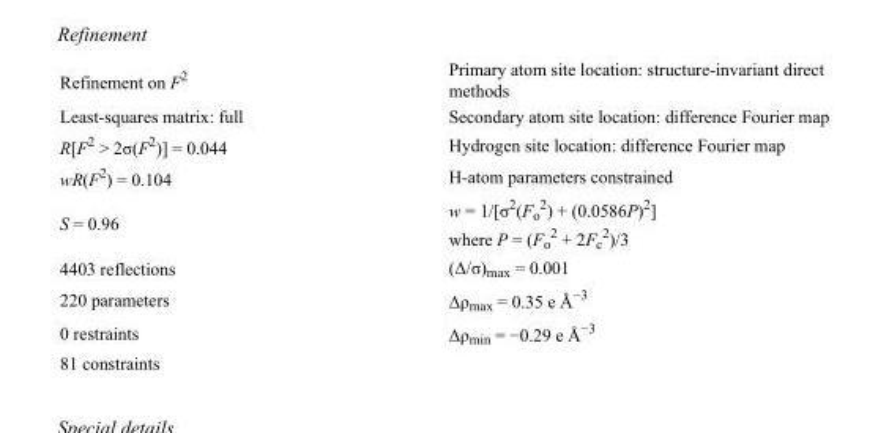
<table><tbody><tr><td>Refinement on F<sup>2</sup></td><td>Primary atom site location: structure-invariant direct methods</td></tr><tr><td>Least-squares matrix: full</td><td>Secondary atom site location: difference Fourier map</td></tr><tr><td>R[F<sup>2</sup> &gt; 2σ(F<sup>2</sup>)] = 0.044</td><td>Hydrogen site location: difference Fourier map</td></tr><tr><td>wR(F<sup>2</sup>) = 0.104</td><td>H-atom parameters constrained</td></tr><tr><td>S = 0.96</td><td>w = 1/[σ<sup>2</sup>(F<sub>o</sub> <sup>2</sup>) + (0.0586P)<sup>2</sup>] where P = (F<sub>o</sub> <sup>2</sup> + 2F<sub>c</sub> <sup>2</sup>)/3</td></tr><tr><td>4403 reflections</td><td>(Δ/σ)<sub>max</sub> = 0.001</td></tr><tr><td>220 parameters</td><td>Δρ<sub>max</sub> = 0.35 e Å<sup>−3</sup></td></tr><tr><td>0 restraints</td><td>Δρ<sub>min</sub> = −0.29 e Å<sup>−3</sup></td></tr><tr><td>81 constraints</td><td></td></tr></tbody></table>